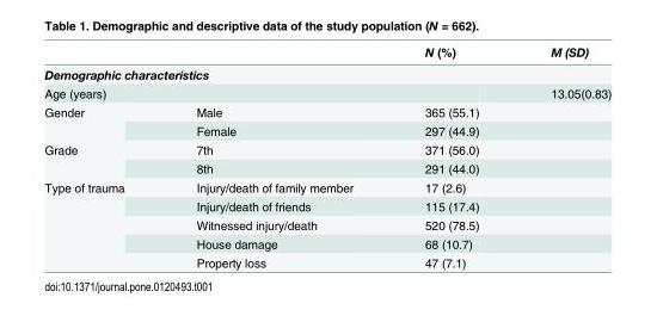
<table><thead><tr><td></td><td></td><td>N (%)</td><td>M (SD)</td></tr></thead><tbody><tr><td colspan="4">Demographic characteristics</td></tr><tr><td>Age (years)</td><td></td><td></td><td>13.05(0.83)</td></tr><tr><td rowspan="2">Gender</td><td>Male</td><td>365 (55.1)</td><td></td></tr><tr><td>Female</td><td>297 (44.9)</td><td></td></tr><tr><td rowspan="2">Grade</td><td>7th</td><td>371 (56.0)</td><td></td></tr><tr><td>8th</td><td>291 (44.0)</td><td></td></tr><tr><td rowspan="5">Type of trauma</td><td>Injury/death of family member</td><td>17 (2.6)</td><td></td></tr><tr><td>Injury/death of friends</td><td>115 (17.4)</td><td></td></tr><tr><td>Witnessed injury/death</td><td>520 (78.5)</td><td></td></tr><tr><td>House damage</td><td>68 (10.7)</td><td></td></tr><tr><td>Property loss</td><td>47 (7.1)</td><td></td></tr></tbody></table>